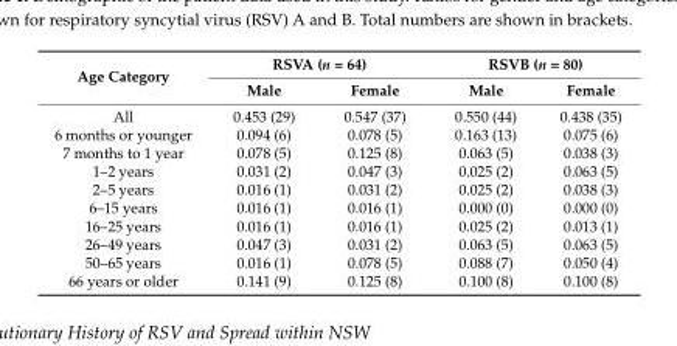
<table><thead><tr><td rowspan="2">Age Category</td><td colspan="2">RSVA (n = 64)</td><td colspan="2">RSVB (n = 80)</td></tr><tr><td>Male</td><td>Female</td><td>Male</td><td>Female</td></tr></thead><tbody><tr><td>All</td><td>0.453 (29)</td><td>0.547 (37)</td><td>0.550 (44)</td><td>0.438 (35)</td></tr><tr><td>6 months or younger</td><td>0.094 (6)</td><td>0.078 (5)</td><td>0.163 (13)</td><td>0.075 (6)</td></tr><tr><td>7 months to 1 year</td><td>0.078 (5)</td><td>0.125 (8)</td><td>0.063 (5)</td><td>0.038 (3)</td></tr><tr><td>1–2 years</td><td>0.031 (2)</td><td>0.047 (3)</td><td>0.025 (2)</td><td>0.063 (5)</td></tr><tr><td>2–5 years</td><td>0.016 (1)</td><td>0.031 (2)</td><td>0.025 (2)</td><td>0.038 (3)</td></tr><tr><td>6–15 years</td><td>0.016 (1)</td><td>0.016 (1)</td><td>0.000 (0)</td><td>0.000 (0)</td></tr><tr><td>16–25 years</td><td>0.016 (1)</td><td>0.016 (1)</td><td>0.025 (2)</td><td>0.013 (1)</td></tr><tr><td>26–49 years</td><td>0.047 (3)</td><td>0.031 (2)</td><td>0.063 (5)</td><td>0.063 (5)</td></tr><tr><td>50–65 years</td><td>0.016 (1)</td><td>0.078 (5)</td><td>0.088 (7)</td><td>0.050 (4)</td></tr><tr><td>66 years or older</td><td>0.141 (9)</td><td>0.125 (8)</td><td>0.100 (8)</td><td>0.100 (8)</td></tr></tbody></table>